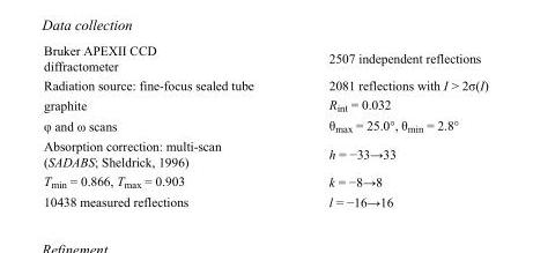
<table><tbody><tr><td>Bruker APEXII CCD diffractometer</td><td>2507 independent reflections</td></tr><tr><td>Radiation source: fine-focus sealed tube</td><td>2081 reflections with I &gt; 2σ(I)</td></tr><tr><td>graphite</td><td>R<sub>int</sub> = 0.032</td></tr><tr><td>φ and ω scans</td><td>θ<sub>max</sub> = 25.0°, θ<sub>min</sub> = 2.8°</td></tr><tr><td>Absorption correction: multi-scan (SADABS; Sheldrick, 1996)</td><td>h = −33→33</td></tr><tr><td>T<sub>min</sub> = 0.866, T<sub>max</sub> = 0.903</td><td>k = −8→8</td></tr><tr><td>10438 measured reflections</td><td>l = −16→16</td></tr></tbody></table>